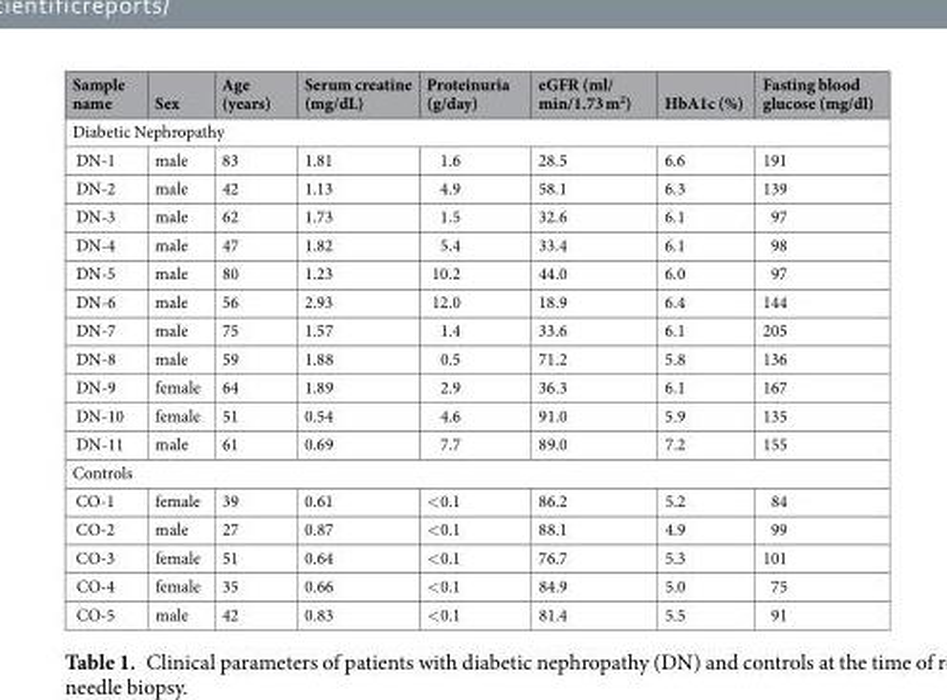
<table><thead><tr><td>Sample name</td><td>Sex</td><td>Age (years)</td><td>Serum creatine (mg/dL)</td><td>Proteinuria (g/day)</td><td>eGFR (ml/ min/1.73 m<sup>2</sup>)</td><td>HbA1c (%)</td><td>Fasting blood glucose (mg/dl)</td></tr></thead><tbody><tr><td colspan="8">Diabetic Nephropathy</td></tr><tr><td>DN-1</td><td>male</td><td>83</td><td>1.81</td><td>1.6</td><td>28.5</td><td>6.6</td><td>191</td></tr><tr><td>DN-2</td><td>male</td><td>42</td><td>1.13</td><td>4.9</td><td>58.1</td><td>6.3</td><td>139</td></tr><tr><td>DN-3</td><td>male</td><td>62</td><td>1.73</td><td>1.5</td><td>32.6</td><td>6.1</td><td>97</td></tr><tr><td>DN-4</td><td>male</td><td>47</td><td>1.82</td><td>5.4</td><td>33.4</td><td>6.1</td><td>98</td></tr><tr><td>DN-5</td><td>male</td><td>80</td><td>1.23</td><td>10.2</td><td>44.0</td><td>6.0</td><td>97</td></tr><tr><td>DN-6</td><td>male</td><td>56</td><td>2.93</td><td>12.0</td><td>18.9</td><td>6.4</td><td>144</td></tr><tr><td>DN-7</td><td>male</td><td>75</td><td>1.57</td><td>1.4</td><td>33.6</td><td>6.1</td><td>205</td></tr><tr><td>DN-8</td><td>male</td><td>59</td><td>1.88</td><td>0.5</td><td>71.2</td><td>5.8</td><td>136</td></tr><tr><td>DN-9</td><td>female</td><td>64</td><td>1.89</td><td>2.9</td><td>36.3</td><td>6.1</td><td>167</td></tr><tr><td>DN-10</td><td>female</td><td>51</td><td>0.54</td><td>4.6</td><td>91.0</td><td>5.9</td><td>135</td></tr><tr><td>DN-11</td><td>male</td><td>61</td><td>0.69</td><td>7.7</td><td>89.0</td><td>7.2</td><td>155</td></tr><tr><td colspan="8">Controls</td></tr><tr><td>CO-1</td><td>female</td><td>39</td><td>0.61</td><td>&lt;0.1</td><td>86.2</td><td>5.2</td><td>84</td></tr><tr><td>CO-2</td><td>male</td><td>27</td><td>0.87</td><td>&lt;0.1</td><td>88.1</td><td>4.9</td><td>99</td></tr><tr><td>CO-3</td><td>female</td><td>51</td><td>0.64</td><td>&lt;0.1</td><td>76.7</td><td>5.3</td><td>101</td></tr><tr><td>CO-4</td><td>female</td><td>35</td><td>0.66</td><td>&lt;0.1</td><td>84.9</td><td>5.0</td><td>75</td></tr><tr><td>CO-5</td><td>male</td><td>42</td><td>0.83</td><td>&lt;0.1</td><td>81.4</td><td>5.5</td><td>91</td></tr></tbody></table>